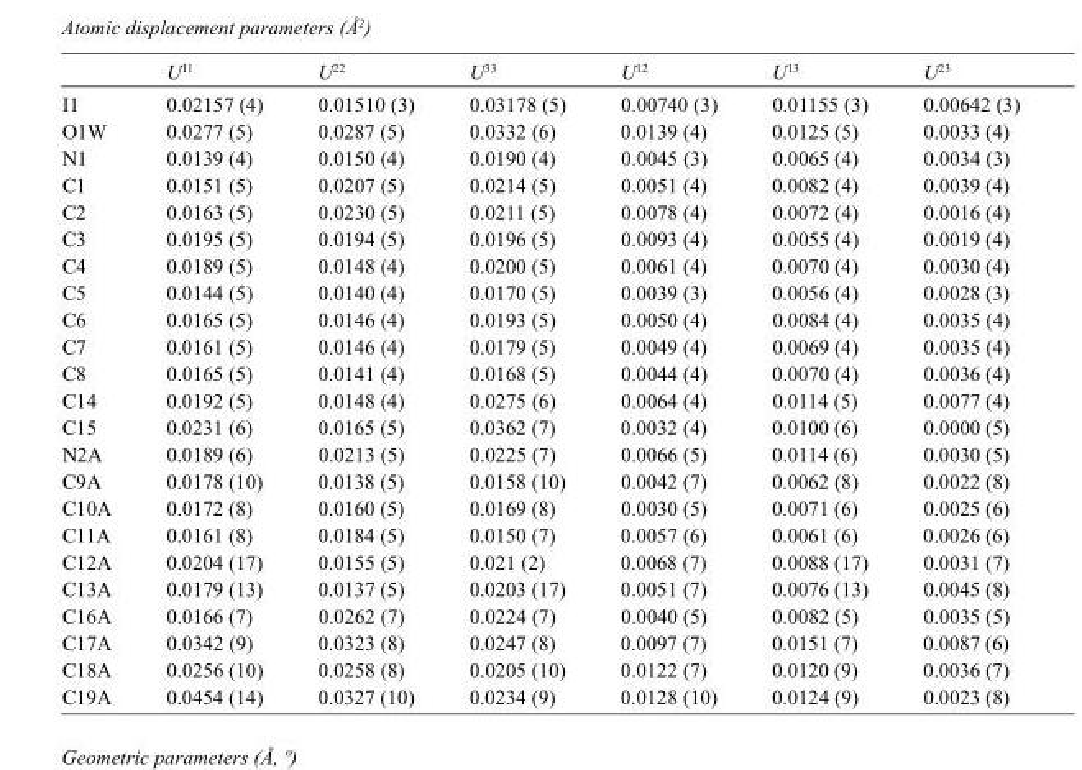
<table><thead><tr><td></td><td>U<sup>11</sup></td><td>U<sup>22</sup></td><td>U<sup>33</sup></td><td>U<sup>12</sup></td><td>U<sup>13</sup></td><td>U<sup>23</sup></td></tr></thead><tbody><tr><td>I1</td><td>0.02157 (4)</td><td>0.01510 (3)</td><td>0.03178 (5)</td><td>0.00740 (3)</td><td>0.01155 (3)</td><td>0.00642 (3)</td></tr><tr><td>O1W</td><td>0.0277 (5)</td><td>0.0287 (5)</td><td>0.0332 (6)</td><td>0.0139 (4)</td><td>0.0125 (5)</td><td>0.0033 (4)</td></tr><tr><td>N1</td><td>0.0139 (4)</td><td>0.0150 (4)</td><td>0.0190 (4)</td><td>0.0045 (3)</td><td>0.0065 (4)</td><td>0.0034 (3)</td></tr><tr><td>C1</td><td>0.0151 (5)</td><td>0.0207 (5)</td><td>0.0214 (5)</td><td>0.0051 (4)</td><td>0.0082 (4)</td><td>0.0039 (4)</td></tr><tr><td>C2</td><td>0.0163 (5)</td><td>0.0230 (5)</td><td>0.0211 (5)</td><td>0.0078 (4)</td><td>0.0072 (4)</td><td>0.0016 (4)</td></tr><tr><td>C3</td><td>0.0195 (5)</td><td>0.0194 (5)</td><td>0.0196 (5)</td><td>0.0093 (4)</td><td>0.0055 (4)</td><td>0.0019 (4)</td></tr><tr><td>C4</td><td>0.0189 (5)</td><td>0.0148 (4)</td><td>0.0200 (5)</td><td>0.0061 (4)</td><td>0.0070 (4)</td><td>0.0030 (4)</td></tr><tr><td>C5</td><td>0.0144 (5)</td><td>0.0140 (4)</td><td>0.0170 (5)</td><td>0.0039 (3)</td><td>0.0056 (4)</td><td>0.0028 (3)</td></tr><tr><td>C6</td><td>0.0165 (5)</td><td>0.0146 (4)</td><td>0.0193 (5)</td><td>0.0050 (4)</td><td>0.0084 (4)</td><td>0.0035 (4)</td></tr><tr><td>C7</td><td>0.0161 (5)</td><td>0.0146 (4)</td><td>0.0179 (5)</td><td>0.0049 (4)</td><td>0.0069 (4)</td><td>0.0035 (4)</td></tr><tr><td>C8</td><td>0.0165 (5)</td><td>0.0141 (4)</td><td>0.0168 (5)</td><td>0.0044 (4)</td><td>0.0070 (4)</td><td>0.0036 (4)</td></tr><tr><td>C14</td><td>0.0192 (5)</td><td>0.0148 (4)</td><td>0.0275 (6)</td><td>0.0064 (4)</td><td>0.0114 (5)</td><td>0.0077 (4)</td></tr><tr><td>C15</td><td>0.0231 (6)</td><td>0.0165 (5)</td><td>0.0362 (7)</td><td>0.0032 (4)</td><td>0.0100 (6)</td><td>0.0000 (5)</td></tr><tr><td>N2A</td><td>0.0189 (6)</td><td>0.0213 (5)</td><td>0.0225 (7)</td><td>0.0066 (5)</td><td>0.0114 (6)</td><td>0.0030 (5)</td></tr><tr><td>C9A</td><td>0.0178 (10)</td><td>0.0138 (5)</td><td>0.0158 (10)</td><td>0.0042 (7)</td><td>0.0062 (8)</td><td>0.0022 (8)</td></tr><tr><td>C10A</td><td>0.0172 (8)</td><td>0.0160 (5)</td><td>0.0169 (8)</td><td>0.0030 (5)</td><td>0.0071 (6)</td><td>0.0025 (6)</td></tr><tr><td>C11A</td><td>0.0161 (8)</td><td>0.0184 (5)</td><td>0.0150 (7)</td><td>0.0057 (6)</td><td>0.0061 (6)</td><td>0.0026 (6)</td></tr><tr><td>C12A</td><td>0.0204 (17)</td><td>0.0155 (5)</td><td>0.021 (2)</td><td>0.0068 (7)</td><td>0.0088 (17)</td><td>0.0031 (7)</td></tr><tr><td>C13A</td><td>0.0179 (13)</td><td>0.0137 (5)</td><td>0.0203 (17)</td><td>0.0051 (7)</td><td>0.0076 (13)</td><td>0.0045 (8)</td></tr><tr><td>C16A</td><td>0.0166 (7)</td><td>0.0262 (7)</td><td>0.0224 (7)</td><td>0.0040 (5)</td><td>0.0082 (5)</td><td>0.0035 (5)</td></tr><tr><td>C17A</td><td>0.0342 (9)</td><td>0.0323 (8)</td><td>0.0247 (8)</td><td>0.0097 (7)</td><td>0.0151 (7)</td><td>0.0087 (6)</td></tr><tr><td>C18A</td><td>0.0256 (10)</td><td>0.0258 (8)</td><td>0.0205 (10)</td><td>0.0122 (7)</td><td>0.0120 (9)</td><td>0.0036 (7)</td></tr><tr><td>C19A</td><td>0.0454 (14)</td><td>0.0327 (10)</td><td>0.0234 (9)</td><td>0.0128 (10)</td><td>0.0124 (9)</td><td>0.0023 (8)</td></tr></tbody></table>